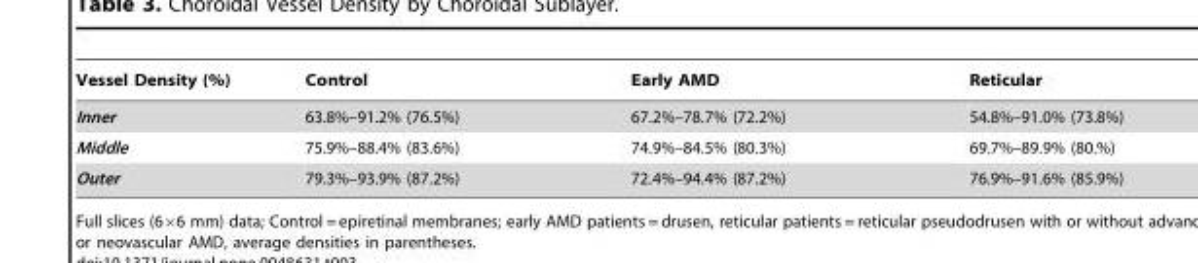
<table><thead><tr><td>Vessel Density (%)</td><td>Control</td><td>Early AMD</td><td>Reticular</td></tr></thead><tbody><tr><td>Inner</td><td>63.8%–91.2% (76.5%)</td><td>67.2%–78.7% (72.2%)</td><td>54.8%–91.0% (73.8%)</td></tr><tr><td>Middle</td><td>75.9%–88.4% (83.6%)</td><td>74.9%–84.5% (80.3%)</td><td>69.7%–89.9% (80.%)</td></tr><tr><td>Outer</td><td>79.3%–93.9% (87.2%)</td><td>72.4%–94.4% (87.2%)</td><td>76.9%–91.6% (85.9%)</td></tr></tbody></table>